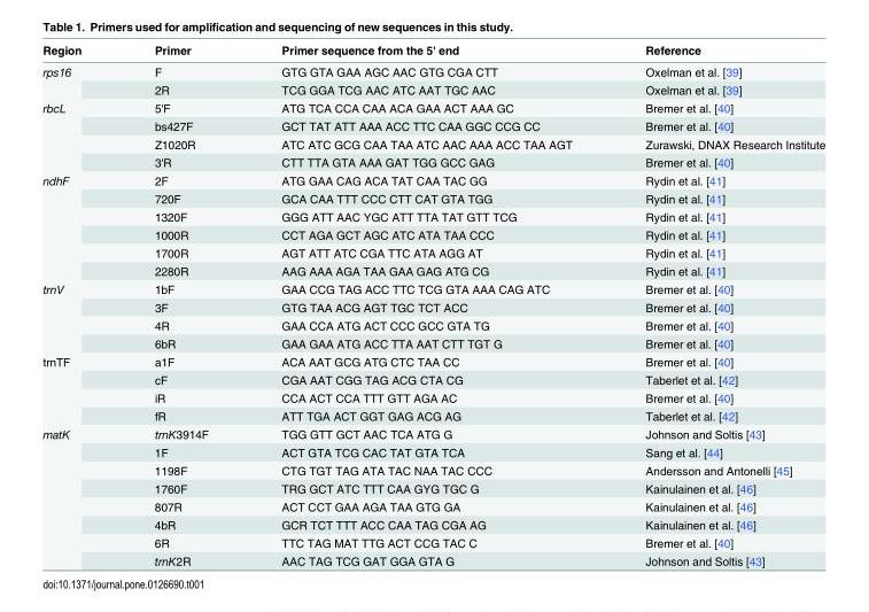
<table><thead><tr><td>Region</td><td>Primer</td><td>Primer sequence from the 5&#x27; end</td><td>Reference</td></tr></thead><tbody><tr><td rowspan="2">rps16</td><td>F</td><td>GTG GTA GAA AGC AAC GTG CGA CTT</td><td>Oxelman et al. [39]</td></tr><tr><td>2R</td><td>TCG GGA TCG AAC ATC AAT TGC AAC</td><td>Oxelman et al. [39]</td></tr><tr><td rowspan="4">rbcL</td><td>5&#x27;F</td><td>ATG TCA CCA CAA ACA GAA ACT AAA GC</td><td>Bremer et al. [40]</td></tr><tr><td>bs427F</td><td>GCT TAT ATT AAA ACC TTC CAA GGC CCG CC</td><td>Bremer et al. [40]</td></tr><tr><td>Z1020R</td><td>ATC ATC GCG CAA TAA ATC AAC AAA ACC TAA AGT</td><td>Zurawski, DNAX Research Institute</td></tr><tr><td>3&#x27;R</td><td>CTT TTA GTA AAA GAT TGG GCC GAG</td><td>Bremer et al. [40]</td></tr><tr><td rowspan="6">ndhF</td><td>2F</td><td>ATG GAA CAG ACA TAT CAA TAC GG</td><td>Rydin et al. [41]</td></tr><tr><td>720F</td><td>GCA CAA TTT CCC CTT CAT GTA TGG</td><td>Rydin et al. [41]</td></tr><tr><td>1320F</td><td>GGG ATT AAC YGC ATT TTA TAT GTT TCG</td><td>Rydin et al. [41]</td></tr><tr><td>1000R</td><td>CCT AGA GCT AGC ATC ATA TAA CCC</td><td>Rydin et al. [41]</td></tr><tr><td>1700R</td><td>AGT ATT ATC CGA TTC ATA AGG AT</td><td>Rydin et al. [41]</td></tr><tr><td>2280R</td><td>AAG AAA AGA TAA GAA GAG ATG CG</td><td>Rydin et al. [41]</td></tr><tr><td rowspan="4">trnV</td><td>1bF</td><td>GAA CCG TAG ACC TTC TCG GTA AAA CAG ATC</td><td>Bremer et al. [40]</td></tr><tr><td>3F</td><td>GTG TAA ACG AGT TGC TCT ACC</td><td>Bremer et al. [40]</td></tr><tr><td>4R</td><td>GAA CCA ATG ACT CCC GCC GTA TG</td><td>Bremer et al. [40]</td></tr><tr><td>6bR</td><td>GAA GAA ATG ACC TTA AAT CTT TGT G</td><td>Bremer et al. [40]</td></tr><tr><td rowspan="4">trnTF</td><td>a1F</td><td>ACA AAT GCG ATG CTC TAA CC</td><td>Bremer et al. [40]</td></tr><tr><td>cF</td><td>CGA AAT CGG TAG ACG CTA CG</td><td>Taberlet et al. [42]</td></tr><tr><td>iR</td><td>CCA ACT CCA TTT GTT AGA AC</td><td>Bremer et al. [40]</td></tr><tr><td>fR</td><td>ATT TGA ACT GGT GAG ACG AG</td><td>Taberlet et al. [42]</td></tr><tr><td rowspan="8">matK</td><td>trnK3914F</td><td>TGG GTT GCT AAC TCA ATG G</td><td>Johnson and Soltis [43]</td></tr><tr><td>1F</td><td>ACT GTA TCG CAC TAT GTA TCA</td><td>Sang et al. [44]</td></tr><tr><td>1198F</td><td>CTG TGT TAG ATA TAC NAA TAC CCC</td><td>Andersson and Antonelli [45]</td></tr><tr><td>1760F</td><td>TRG GCT ATC TTT CAA GYG TGC G</td><td>Kainulainen et al. [46]</td></tr><tr><td>807R</td><td>ACT CCT GAA AGA TAA GTG GA</td><td>Kainulainen et al. [46]</td></tr><tr><td>4bR</td><td>GCR TCT TTT ACC CAA TAG CGA AG</td><td>Kainulainen et al. [46]</td></tr><tr><td>6R</td><td>TTC TAG MAT TTG ACT CCG TAC C</td><td>Bremer et al. [40]</td></tr><tr><td>trnK2R</td><td>AAC TAG TCG GAT GGA GTA G</td><td>Johnson and Soltis [43]</td></tr></tbody></table>